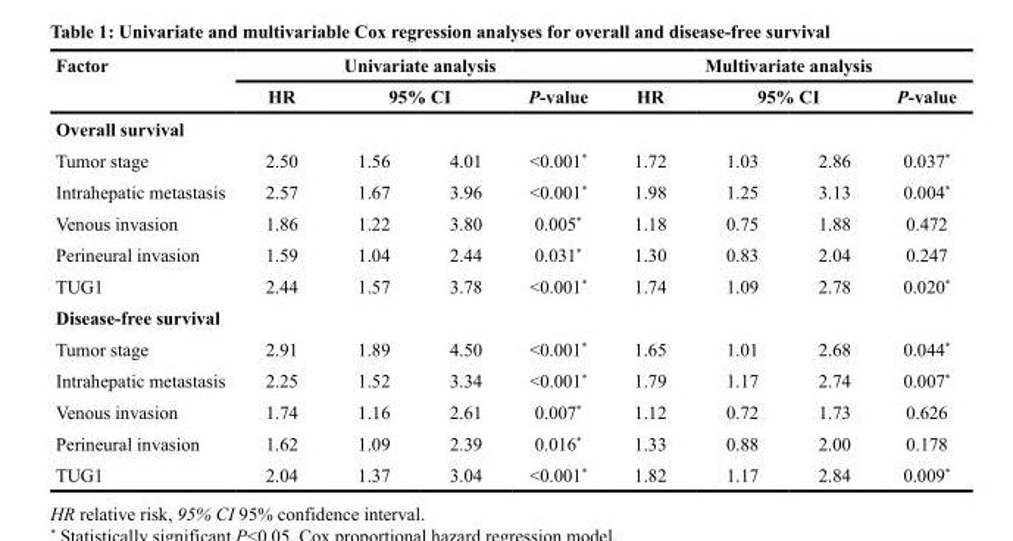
<table><thead><tr><td rowspan="3">Factor Overall survival</td><td colspan="4">Univariate analysis</td><td colspan="4">Multivariate analysis</td></tr><tr><td rowspan="2">HR</td><td colspan="2">95% CI</td><td rowspan="2">P-value</td><td rowspan="2">HR</td><td colspan="2">95% CI</td><td rowspan="2">P-value</td></tr><tr><td></td><td></td><td></td><td></td></tr></thead><tbody><tr><td>Tumor stage</td><td>2.50</td><td>1.56</td><td>4.01</td><td>&lt;0.001*</td><td>1.72</td><td>1.03</td><td>2.86</td><td>0.037*</td></tr><tr><td>Intrahepatic metastasis</td><td>2.57</td><td>1.67</td><td>3.96</td><td>&lt;0.001*</td><td>1.98</td><td>1.25</td><td>3.13</td><td>0.004*</td></tr><tr><td>Venous invasion</td><td>1.86</td><td>1.22</td><td>3.80</td><td>0.005*</td><td>1.18</td><td>0.75</td><td>1.88</td><td>0.472</td></tr><tr><td>Perineural invasion</td><td>1.59</td><td>1.04</td><td>2.44</td><td>0.031*</td><td>1.30</td><td>0.83</td><td>2.04</td><td>0.247</td></tr><tr><td>TUG1</td><td>2.44</td><td>1.57</td><td>3.78</td><td>&lt;0.001*</td><td>1.74</td><td>1.09</td><td>2.78</td><td>0.020*</td></tr><tr><td colspan="9">Disease-free survival</td></tr><tr><td>Tumor stage</td><td>2.91</td><td>1.89</td><td>4.50</td><td>&lt;0.001*</td><td>1.65</td><td>1.01</td><td>2.68</td><td>0.044*</td></tr><tr><td>Intrahepatic metastasis</td><td>2.25</td><td>1.52</td><td>3.34</td><td>&lt;0.001*</td><td>1.79</td><td>1.17</td><td>2.74</td><td>0.007*</td></tr><tr><td>Venous invasion</td><td>1.74</td><td>1.16</td><td>2.61</td><td>0.007*</td><td>1.12</td><td>0.72</td><td>1.73</td><td>0.626</td></tr><tr><td>Perineural invasion</td><td>1.62</td><td>1.09</td><td>2.39</td><td>0.016*</td><td>1.33</td><td>0.88</td><td>2.00</td><td>0.178</td></tr><tr><td>TUG1</td><td>2.04</td><td>1.37</td><td>3.04</td><td>&lt;0.001*</td><td>1.82</td><td>1.17</td><td>2.84</td><td>0.009*</td></tr></tbody></table>